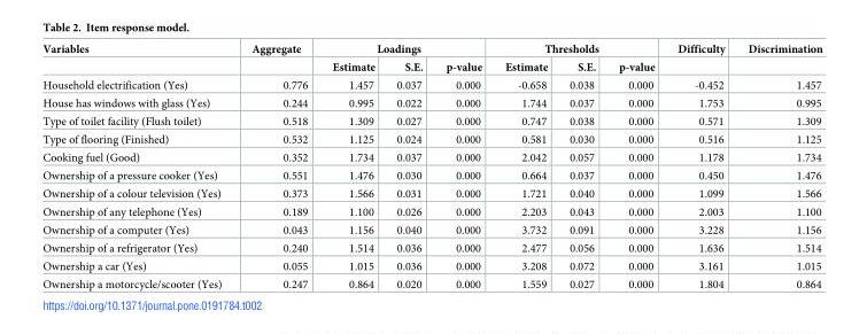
<table><thead><tr><td rowspan="2">Variables</td><td rowspan="2">Aggregate</td><td colspan="3">Loadings</td><td colspan="3">Thresholds</td><td rowspan="2">Difficulty</td><td rowspan="2">Discrimination</td></tr><tr><td>Estimate</td><td>S.E.</td><td>p-value</td><td>Estimate</td><td>S.E.</td><td>p-value</td></tr></thead><tbody><tr><td>Household electrification (Yes)</td><td>0.776</td><td>1.457</td><td>0.037</td><td>0.000</td><td>-0.658</td><td>0.038</td><td>0.000</td><td>-0.452</td><td>1.457</td></tr><tr><td>House has windows with glass (Yes)</td><td>0.244</td><td>0.995</td><td>0.022</td><td>0.000</td><td>1.744</td><td>0.037</td><td>0.000</td><td>1.753</td><td>0.995</td></tr><tr><td>Type of toilet facility (Flush toilet)</td><td>0.518</td><td>1.309</td><td>0.027</td><td>0.000</td><td>0.747</td><td>0.038</td><td>0.000</td><td>0.571</td><td>1.309</td></tr><tr><td>Type of flooring (Finished)</td><td>0.532</td><td>1.125</td><td>0.024</td><td>0.000</td><td>0.581</td><td>0.030</td><td>0.000</td><td>0.516</td><td>1.125</td></tr><tr><td>Cooking fuel (Good)</td><td>0.352</td><td>1.734</td><td>0.037</td><td>0.000</td><td>2.042</td><td>0.057</td><td>0.000</td><td>1.178</td><td>1.734</td></tr><tr><td>Ownership of a pressure cooker (Yes)</td><td>0.551</td><td>1.476</td><td>0.030</td><td>0.000</td><td>0.664</td><td>0.037</td><td>0.000</td><td>0.450</td><td>1.476</td></tr><tr><td>Ownership of a colour television (Yes)</td><td>0.373</td><td>1.566</td><td>0.031</td><td>0.000</td><td>1.721</td><td>0.040</td><td>0.000</td><td>1.099</td><td>1.566</td></tr><tr><td>Ownership of any telephone (Yes)</td><td>0.189</td><td>1.100</td><td>0.026</td><td>0.000</td><td>2.203</td><td>0.043</td><td>0.000</td><td>2.003</td><td>1.100</td></tr><tr><td>Ownership of a computer (Yes)</td><td>0.043</td><td>1.156</td><td>0.040</td><td>0.000</td><td>3.732</td><td>0.091</td><td>0.000</td><td>3.228</td><td>1.156</td></tr><tr><td>Ownership of a refrigerator (Yes)</td><td>0.240</td><td>1.514</td><td>0.036</td><td>0.000</td><td>2.477</td><td>0.056</td><td>0.000</td><td>1.636</td><td>1.514</td></tr><tr><td>Ownership a car (Yes)</td><td>0.055</td><td>1.015</td><td>0.036</td><td>0.000</td><td>3.208</td><td>0.072</td><td>0.000</td><td>3.161</td><td>1.015</td></tr><tr><td>Ownership a motorcycle/scooter (Yes)</td><td>0.247</td><td>0.864</td><td>0.020</td><td>0.000</td><td>1.559</td><td>0.027</td><td>0.000</td><td>1.804</td><td>0.864</td></tr></tbody></table>